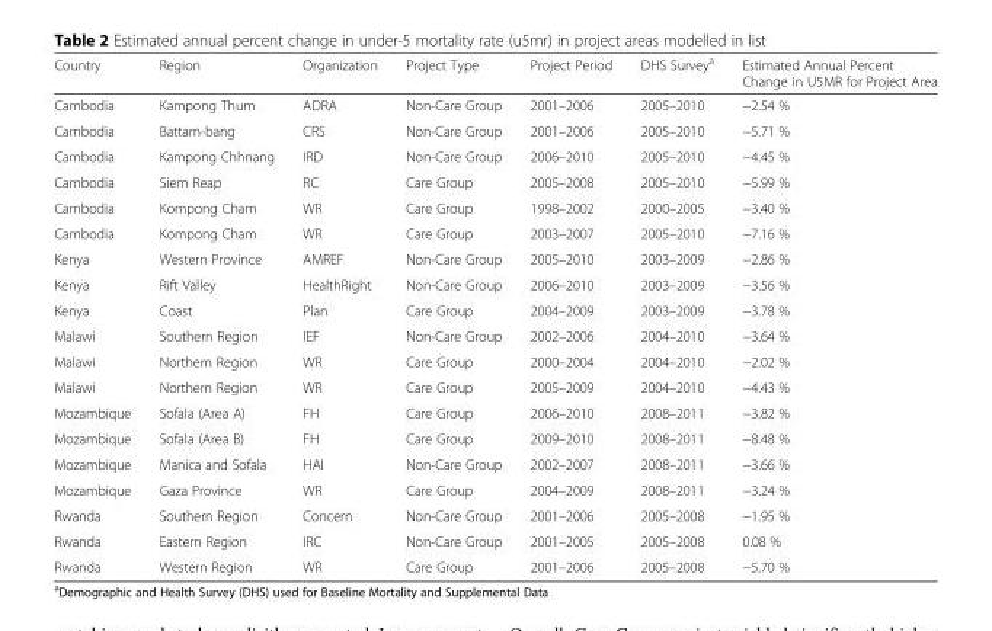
<table><thead><tr><td>Country</td><td>Region</td><td>Organization</td><td>Project Type</td><td>Project Period</td><td>DHS Survey<sup>a</sup></td><td>Estimated Annual Percent Change in U5MR for Project Area</td></tr></thead><tbody><tr><td>Cambodia</td><td>Kampong Thum</td><td>ADRA</td><td>Non-Care Group</td><td>2001–2006</td><td>2005–2010</td><td>−2.54 %</td></tr><tr><td>Cambodia</td><td>Battam-bang</td><td>CRS</td><td>Non-Care Group</td><td>2001–2006</td><td>2005–2010</td><td>−5.71 %</td></tr><tr><td>Cambodia</td><td>Kampong Chhnang</td><td>IRD</td><td>Non-Care Group</td><td>2006–2010</td><td>2005–2010</td><td>−4.45 %</td></tr><tr><td>Cambodia</td><td>Siem Reap</td><td>RC</td><td>Care Group</td><td>2005–2008</td><td>2005–2010</td><td>−5.99 %</td></tr><tr><td>Cambodia</td><td>Kompong Cham</td><td>WR</td><td>Care Group</td><td>1998–2002</td><td>2000–2005</td><td>−3.40 %</td></tr><tr><td>Cambodia</td><td>Kompong Cham</td><td>WR</td><td>Care Group</td><td>2003–2007</td><td>2005–2010</td><td>−7.16 %</td></tr><tr><td>Kenya</td><td>Western Province</td><td>AMREF</td><td>Non-Care Group</td><td>2005–2010</td><td>2003–2009</td><td>−2.86 %</td></tr><tr><td>Kenya</td><td>Rift Valley</td><td>HealthRight</td><td>Non-Care Group</td><td>2006–2010</td><td>2003–2009</td><td>−3.56 %</td></tr><tr><td>Kenya</td><td>Coast</td><td>Plan</td><td>Care Group</td><td>2004–2009</td><td>2003–2009</td><td>−3.78 %</td></tr><tr><td>Malawi</td><td>Southern Region</td><td>IEF</td><td>Non-Care Group</td><td>2002–2006</td><td>2004–2010</td><td>−3.64 %</td></tr><tr><td>Malawi</td><td>Northern Region</td><td>WR</td><td>Care Group</td><td>2000–2004</td><td>2004–2010</td><td>−2.02 %</td></tr><tr><td>Malawi</td><td>Northern Region</td><td>WR</td><td>Care Group</td><td>2005–2009</td><td>2004–2010</td><td>−4.43 %</td></tr><tr><td>Mozambique</td><td>Sofala (Area A)</td><td>FH</td><td>Care Group</td><td>2006–2010</td><td>2008–2011</td><td>−3.82 %</td></tr><tr><td>Mozambique</td><td>Sofala (Area B)</td><td>FH</td><td>Care Group</td><td>2009–2010</td><td>2008–2011</td><td>−8.48 %</td></tr><tr><td>Mozambique</td><td>Manica and Sofala</td><td>HAI</td><td>Non-Care Group</td><td>2002–2007</td><td>2008–2011</td><td>−3.66 %</td></tr><tr><td>Mozambique</td><td>Gaza Province</td><td>WR</td><td>Care Group</td><td>2004–2009</td><td>2008–2011</td><td>−3.24 %</td></tr><tr><td>Rwanda</td><td>Southern Region</td><td>Concern</td><td>Non-Care Group</td><td>2001–2006</td><td>2005–2008</td><td>−1.95 %</td></tr><tr><td>Rwanda</td><td>Eastern Region</td><td>IRC</td><td>Non-Care Group</td><td>2001–2005</td><td>2005–2008</td><td>0.08 %</td></tr><tr><td>Rwanda</td><td>Western Region</td><td>WR</td><td>Care Group</td><td>2001–2006</td><td>2005–2008</td><td>−5.70 %</td></tr></tbody></table>